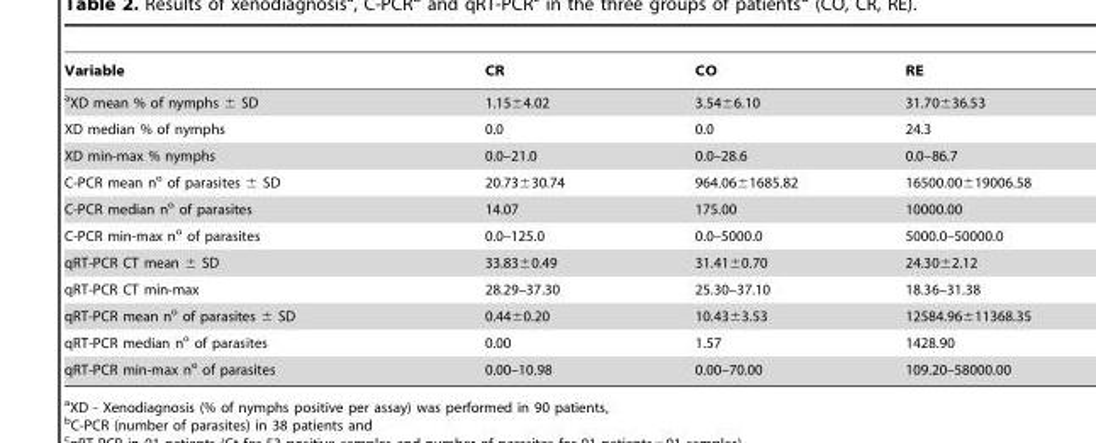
<table><thead><tr><td>Variable</td><td>CR</td><td>CO</td><td>RE</td></tr></thead><tbody><tr><td>aXD mean % of nymphs ± SD</td><td>1.15±4.02</td><td>3.54±6.10</td><td>31.70±36.53</td></tr><tr><td>XD median % of nymphs</td><td>0.0</td><td>0.0</td><td>24.3</td></tr><tr><td>XD min-max % nymphs</td><td>0.0–21.0</td><td>0.0–28.6</td><td>0.0–86.7</td></tr><tr><td>C-PCR mean n<sup>o</sup> of parasites ± SD</td><td>20.73±30.74</td><td>964.06±1685.82</td><td>16500.00±19006.58</td></tr><tr><td>C-PCR median n<sup>o</sup> of parasites</td><td>14.07</td><td>175.00</td><td>10000.00</td></tr><tr><td>C-PCR min-max n<sup>o</sup> of parasites</td><td>0.0–125.0</td><td>0.0–5000.0</td><td>5000.0–50000.0</td></tr><tr><td>qRT-PCR CT mean ± SD</td><td>33.83±0.49</td><td>31.41±0.70</td><td>24.30±2.12</td></tr><tr><td>qRT-PCR CT min-max</td><td>28.29–37.30</td><td>25.30–37.10</td><td>18.36–31.38</td></tr><tr><td>qRT-PCR mean n<sup>o</sup> of parasites ± SD</td><td>0.44±0.20</td><td>10.43±3.53</td><td>12584.96±11368.35</td></tr><tr><td>qRT-PCR median n<sup>o</sup> of parasites</td><td>0.00</td><td>1.57</td><td>1428.90</td></tr><tr><td>qRT-PCR min-max n<sup>o</sup> of parasites</td><td>0.00–10.98</td><td>0.00–70.00</td><td>109.20–58000.00</td></tr></tbody></table>